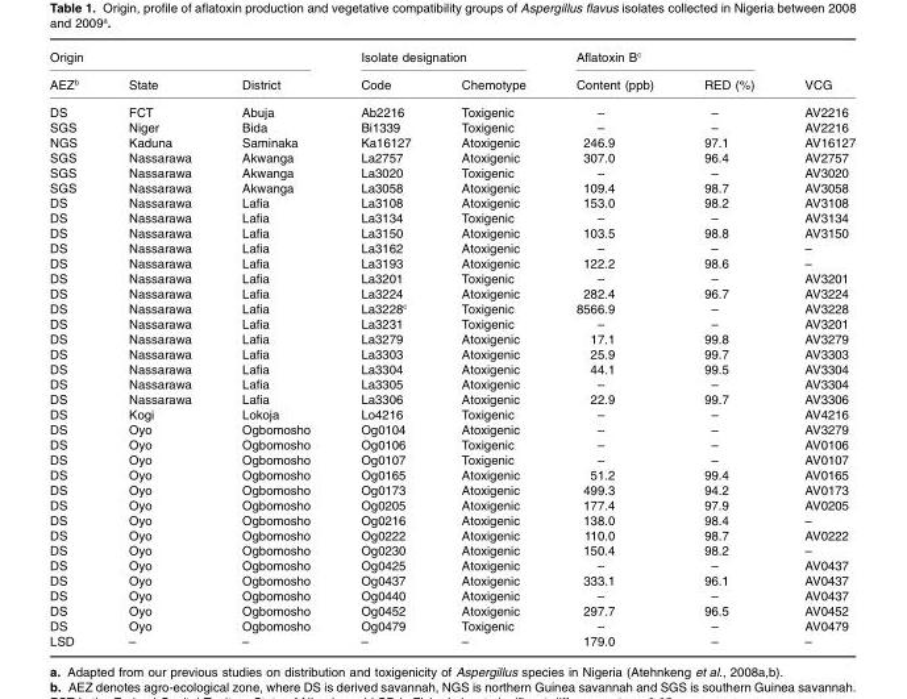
<table><thead><tr><td colspan="3">Origin</td><td colspan="2">Isolate designation</td><td colspan="2">Aflatoxin B<sup>c</sup></td><td rowspan="2">VCG</td></tr><tr><td>AEZ<sup>b</sup></td><td>State</td><td>District</td><td>Code</td><td>Chemotype</td><td>Content (ppb)</td><td>RED (%)</td></tr></thead><tbody><tr><td>DS</td><td>FCT</td><td>Abuja</td><td>Ab2216</td><td>Toxigenic</td><td>–</td><td>–</td><td>AV2216</td></tr><tr><td>SGS</td><td>Niger</td><td>Bida</td><td>Bi1339</td><td>Toxigenic</td><td>–</td><td>–</td><td>AV2216</td></tr><tr><td>NGS</td><td>Kaduna</td><td>Saminaka</td><td>Ka16127</td><td>Atoxigenic</td><td>246.9</td><td>97.1</td><td>AV16127</td></tr><tr><td>SGS</td><td>Nassarawa</td><td>Akwanga</td><td>La2757</td><td>Atoxigenic</td><td>307.0</td><td>96.4</td><td>AV2757</td></tr><tr><td>SGS</td><td>Nassarawa</td><td>Akwanga</td><td>La3020</td><td>Toxigenic</td><td>–</td><td>–</td><td>AV3020</td></tr><tr><td>SGS</td><td>Nassarawa</td><td>Akwanga</td><td>La3058</td><td>Atoxigenic</td><td>109.4</td><td>98.7</td><td>AV3058</td></tr><tr><td>DS</td><td>Nassarawa</td><td>Lafia</td><td>La3108</td><td>Atoxigenic</td><td>153.0</td><td>98.2</td><td>AV3108</td></tr><tr><td>DS</td><td>Nassarawa</td><td>Lafia</td><td>La3134</td><td>Toxigenic</td><td>–</td><td>–</td><td>AV3134</td></tr><tr><td>DS</td><td>Nassarawa</td><td>Lafia</td><td>La3150</td><td>Atoxigenic</td><td>103.5</td><td>98.8</td><td>AV3150</td></tr><tr><td>DS</td><td>Nassarawa</td><td>Lafia</td><td>La3162</td><td>Atoxigenic</td><td>–</td><td>–</td><td>–</td></tr><tr><td>DS</td><td>Nassarawa</td><td>Lafia</td><td>La3193</td><td>Atoxigenic</td><td>122.2</td><td>98.6</td><td>–</td></tr><tr><td>DS</td><td>Nassarawa</td><td>Lafia</td><td>La3201</td><td>Toxigenic</td><td>–</td><td>–</td><td>AV3201</td></tr><tr><td>DS</td><td>Nassarawa</td><td>Lafia</td><td>La3224</td><td>Atoxigenic</td><td>282.4</td><td>96.7</td><td>AV3224</td></tr><tr><td>DS</td><td>Nassarawa</td><td>Lafia</td><td>La3228<sup>c</sup></td><td>Toxigenic</td><td>8566.9</td><td>–</td><td>AV3228</td></tr><tr><td>DS</td><td>Nassarawa</td><td>Lafia</td><td>La3231</td><td>Toxigenic</td><td>–</td><td>–</td><td>AV3201</td></tr><tr><td>DS</td><td>Nassarawa</td><td>Lafia</td><td>La3279</td><td>Atoxigenic</td><td>17.1</td><td>99.8</td><td>AV3279</td></tr><tr><td>DS</td><td>Nassarawa</td><td>Lafia</td><td>La3303</td><td>Atoxigenic</td><td>25.9</td><td>99.7</td><td>AV3303</td></tr><tr><td>DS</td><td>Nassarawa</td><td>Lafia</td><td>La3304</td><td>Atoxigenic</td><td>44.1</td><td>99.5</td><td>AV3304</td></tr><tr><td>DS</td><td>Nassarawa</td><td>Lafia</td><td>La3305</td><td>Atoxigenic</td><td>–</td><td>–</td><td>AV3304</td></tr><tr><td>DS</td><td>Nassarawa</td><td>Lafia</td><td>La3306</td><td>Atoxigenic</td><td>22.9</td><td>99.7</td><td>AV3306</td></tr><tr><td>DS</td><td>Kogi</td><td>Lokoja</td><td>Lo4216</td><td>Toxigenic</td><td>–</td><td>–</td><td>AV4216</td></tr><tr><td>DS</td><td>Oyo</td><td>Ogbomosho</td><td>Og0104</td><td>Atoxigenic</td><td>–</td><td>–</td><td>AV3279</td></tr><tr><td>DS</td><td>Oyo</td><td>Ogbomosho</td><td>Og0106</td><td>Toxigenic</td><td>–</td><td>–</td><td>AV0106</td></tr><tr><td>DS</td><td>Oyo</td><td>Ogbomosho</td><td>Og0107</td><td>Toxigenic</td><td>–</td><td>–</td><td>AV0107</td></tr><tr><td>DS</td><td>Oyo</td><td>Ogbomosho</td><td>Og0165</td><td>Atoxigenic</td><td>51.2</td><td>99.4</td><td>AV0165</td></tr><tr><td>DS</td><td>Oyo</td><td>Ogbomosho</td><td>Og0173</td><td>Atoxigenic</td><td>499.3</td><td>94.2</td><td>AV0173</td></tr><tr><td>DS</td><td>Oyo</td><td>Ogbomosho</td><td>Og0205</td><td>Atoxigenic</td><td>177.4</td><td>97.9</td><td>AV0205</td></tr><tr><td>DS</td><td>Oyo</td><td>Ogbomosho</td><td>Og0216</td><td>Atoxigenic</td><td>138.0</td><td>98.4</td><td>–</td></tr><tr><td>DS</td><td>Oyo</td><td>Ogbomosho</td><td>Og0222</td><td>Atoxigenic</td><td>110.0</td><td>98.7</td><td>AV0222</td></tr><tr><td>DS</td><td>Oyo</td><td>Ogbomosho</td><td>Og0230</td><td>Atoxigenic</td><td>150.4</td><td>98.2</td><td>–</td></tr><tr><td>DS</td><td>Oyo</td><td>Ogbomosho</td><td>Og0425</td><td>Atoxigenic</td><td>–</td><td>–</td><td>AV0437</td></tr><tr><td>DS</td><td>Oyo</td><td>Ogbomosho</td><td>Og0437</td><td>Atoxigenic</td><td>333.1</td><td>96.1</td><td>AV0437</td></tr><tr><td>DS</td><td>Oyo</td><td>Ogbomosho</td><td>Og0440</td><td>Atoxigenic</td><td>–</td><td>–</td><td>AV0437</td></tr><tr><td>DS</td><td>Oyo</td><td>Ogbomosho</td><td>Og0452</td><td>Atoxigenic</td><td>297.7</td><td>96.5</td><td>AV0452</td></tr><tr><td>DS</td><td>Oyo</td><td>Ogbomosho</td><td>Og0479</td><td>Toxigenic</td><td>–</td><td>–</td><td>AV0479</td></tr><tr><td>LSD</td><td>–</td><td>–</td><td>–</td><td>–</td><td>179.0</td><td>–</td><td>–</td></tr></tbody></table>